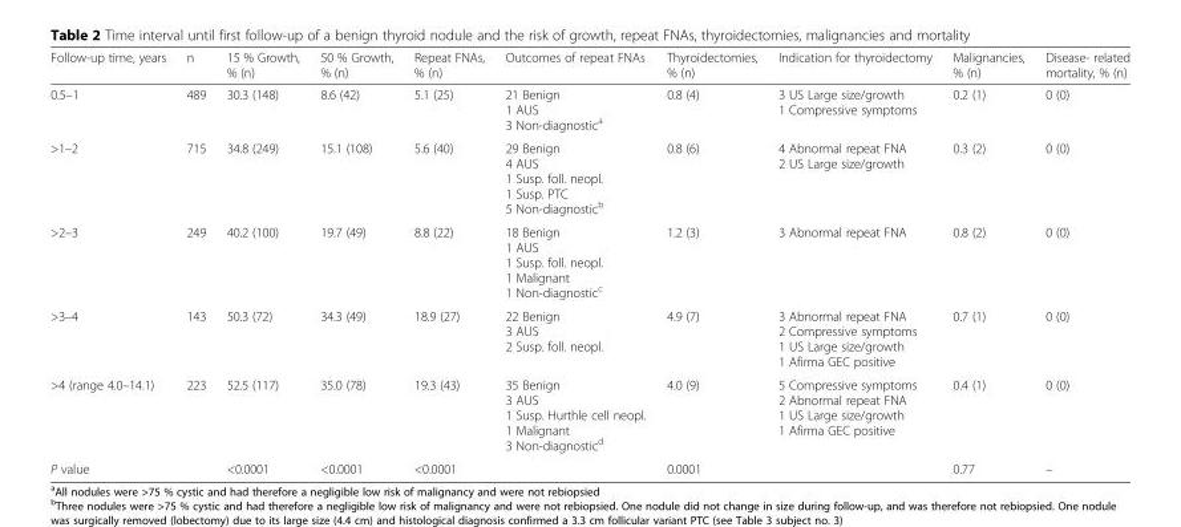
<table><thead><tr><td>Follow-up time, years</td><td>n</td><td>15 % Growth, % (n)</td><td>50 % Growth, % (n)</td><td>Repeat FNAs, % (n)</td><td>Outcomes of repeat FNAs</td><td>Thyroidectomies, % (n)</td><td>Indication for thyroidectomy</td><td>Malignancies, % (n)</td><td>Disease- related mortality, % (n)</td></tr></thead><tbody><tr><td>0.5–1</td><td>489</td><td>30.3 (148)</td><td>8.6 (42)</td><td>5.1 (25)</td><td>21 Benign 1 AUS 3 Non-diagnostic<sup>a</sup></td><td>0.8 (4)</td><td>3 US Large size/growth 1 Compressive symptoms</td><td>0.2 (1)</td><td>0 (0)</td></tr><tr><td>&gt;1–2</td><td>715</td><td>34.8 (249)</td><td>15.1 (108)</td><td>5.6 (40)</td><td>29 Benign 4 AUS 1 Susp. foll. neopl. 1 Susp. PTC 5 Non-diagnostic<sup>b</sup></td><td>0.8 (6)</td><td>4 Abnormal repeat FNA 2 US Large size/growth</td><td>0.3 (2)</td><td>0 (0)</td></tr><tr><td>&gt;2–3</td><td>249</td><td>40.2 (100)</td><td>19.7 (49)</td><td>8.8 (22)</td><td>18 Benign 1 AUS 1 Susp. foll. neopl. 1 Malignant 1 Non-diagnostic<sup>c</sup></td><td>1.2 (3)</td><td>3 Abnormal repeat FNA</td><td>0.8 (2)</td><td>0 (0)</td></tr><tr><td>&gt;3–4</td><td>143</td><td>50.3 (72)</td><td>34.3 (49)</td><td>18.9 (27)</td><td>22 Benign 3 AUS 2 Susp. foll. neopl.</td><td>4.9 (7)</td><td>3 Abnormal repeat FNA 2 Compressive symptoms 1 US Large size/growth 1 Afirma GEC positive</td><td>0.7 (1)</td><td>0 (0)</td></tr><tr><td>&gt;4 (range 4.0–14.1)</td><td>223</td><td>52.5 (117)</td><td>35.0 (78)</td><td>19.3 (43)</td><td>35 Benign 3 AUS 1 Susp. Hurthle cell neopl. 1 Malignant 3 Non-diagnostic<sup>d</sup></td><td>4.0 (9)</td><td>5 Compressive symptoms 2 Abnormal repeat FNA 1 US Large size/growth 1 Afirma GEC positive</td><td>0.4 (1)</td><td>0 (0)</td></tr><tr><td>P value</td><td></td><td>&lt;0.0001</td><td>&lt;0.0001</td><td>&lt;0.0001</td><td></td><td>0.0001</td><td></td><td>0.77</td><td>–</td></tr></tbody></table>